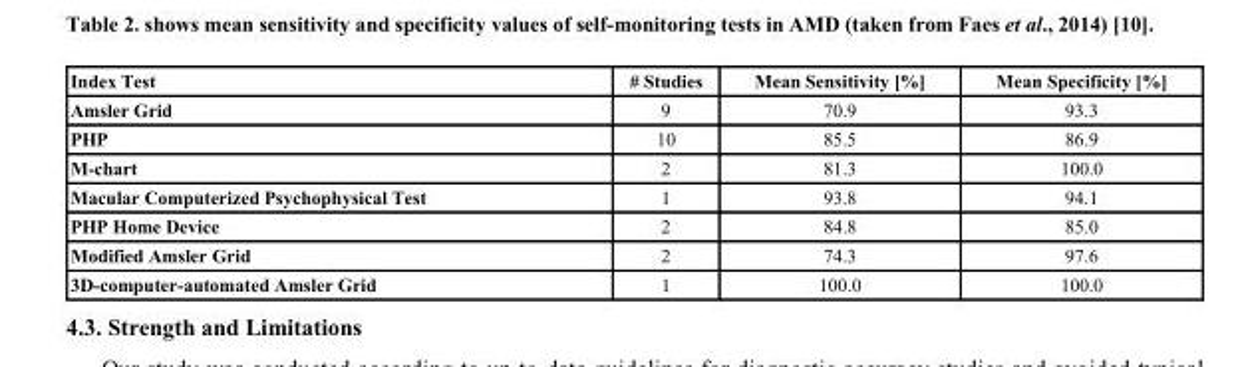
<table><thead><tr><td>Index Test</td><td># Studies</td><td>Mean Sensitivity [%]</td><td>Mean Specificity [%]</td></tr></thead><tbody><tr><td>Amsler Grid</td><td>9</td><td>70.9</td><td>93.3</td></tr><tr><td>PHP</td><td>10</td><td>85.5</td><td>86.9</td></tr><tr><td>M-chart</td><td>2</td><td>81.3</td><td>100.0</td></tr><tr><td>Macular Computerized Psychophysical Test</td><td>1</td><td>93.8</td><td>94.1</td></tr><tr><td>PHP Home Device</td><td>2</td><td>84.8</td><td>85.0</td></tr><tr><td>Modified Amsler Grid</td><td>2</td><td>74.3</td><td>97.6</td></tr><tr><td>3D-computer-automated Amsler Grid</td><td>1</td><td>100.0</td><td>100.0</td></tr></tbody></table>